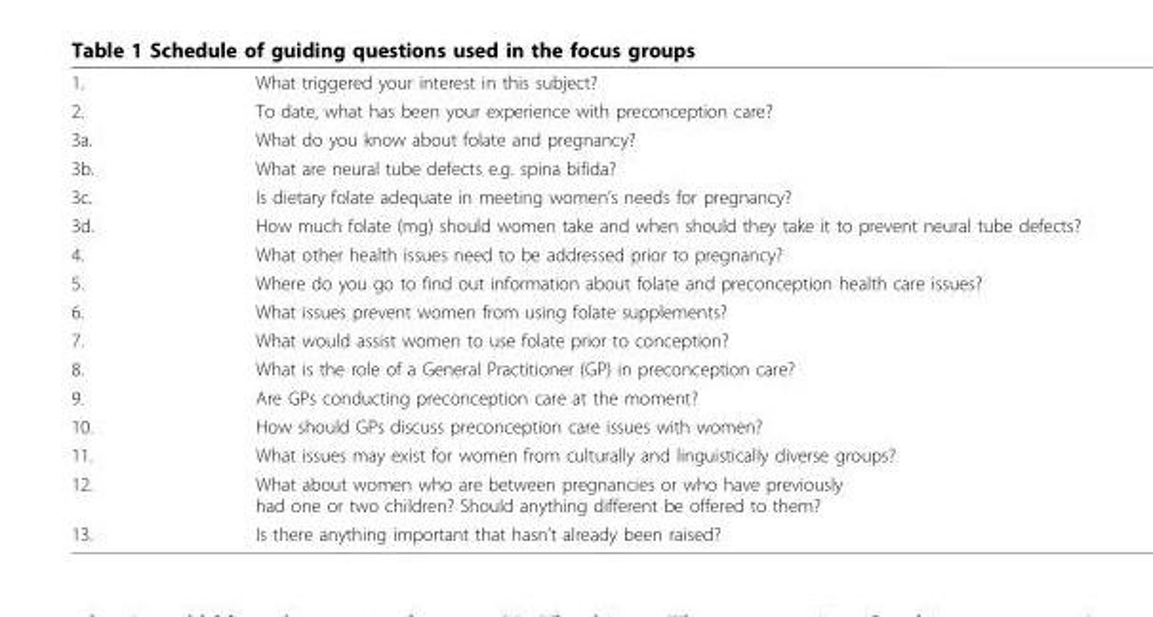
<table><tbody><tr><td>1.</td><td>What triggered your interest in this subject?</td></tr><tr><td>2.</td><td>To date, what has been your experience with preconception care?</td></tr><tr><td>3a.</td><td>What do you know about folate and pregnancy?</td></tr><tr><td>3b.</td><td>What are neural tube defects e.g. spina bifida?</td></tr><tr><td>3c.</td><td>Is dietary folate adequate in meeting women’s needs for pregnancy?</td></tr><tr><td>3d.</td><td>How much folate (mg) should women take and when should they take it to prevent neural tube defects?</td></tr><tr><td>4.</td><td>What other health issues need to be addressed prior to pregnancy?</td></tr><tr><td>5.</td><td>Where do you go to find out information about folate and preconception health care issues?</td></tr><tr><td>6.</td><td>What issues prevent women from using folate supplements?</td></tr><tr><td>7.</td><td>What would assist women to use folate prior to conception?</td></tr><tr><td>8.</td><td>What is the role of a General Practitioner (GP) in preconception care?</td></tr><tr><td>9.</td><td>Are GPs conducting preconception care at the moment?</td></tr><tr><td>10.</td><td>How should GPs discuss preconception care issues with women?</td></tr><tr><td>11.</td><td>What issues may exist for women from culturally and linguistically diverse groups?</td></tr><tr><td>12.</td><td>What about women who are between pregnancies or who have previously had one or two children? Should anything different be offered to them?</td></tr><tr><td>13.</td><td>Is there anything important that hasn’t already been raised?</td></tr></tbody></table>